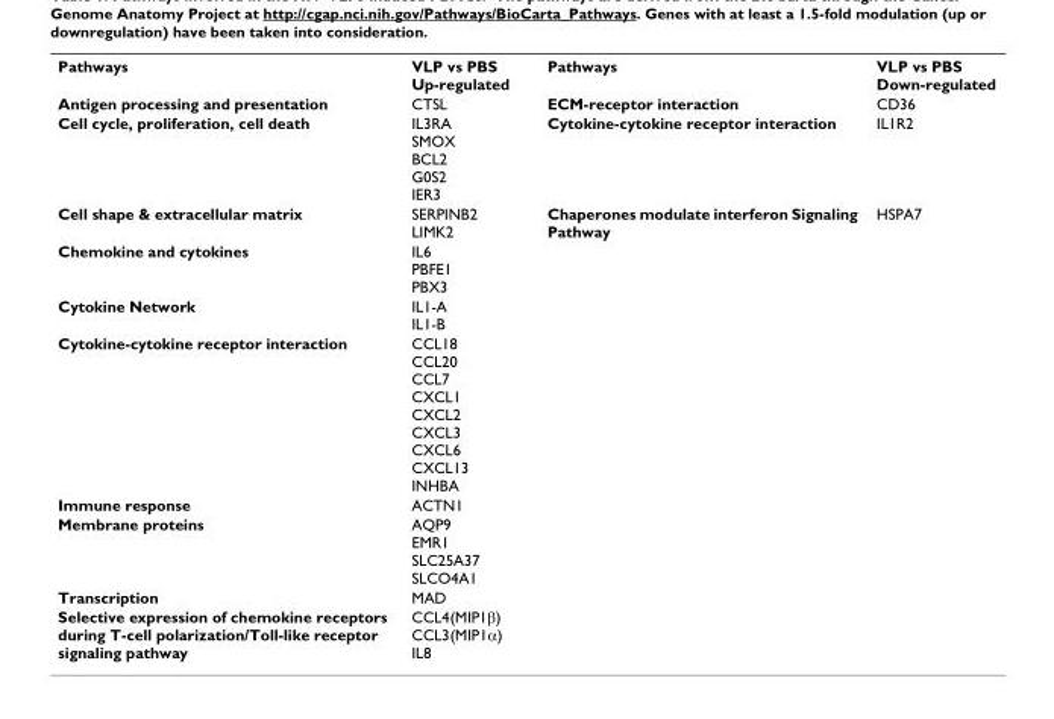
<table><tbody><tr><td>Pathways</td><td>VLP vs PBS Up-regulated</td><td>Pathways</td><td>VLP vs PBS Down-regulated</td></tr><tr><td>Antigen processing and presentation</td><td>CTSL</td><td>ECM-receptor interaction</td><td>CD36</td></tr><tr><td>Cell cycle, proliferation, cell death</td><td>IL3RA SMOX BCL2 G0S2 IER3</td><td>Cytokine-cytokine receptor interaction</td><td>IL1R2</td></tr><tr><td>Cell shape &amp; extracellular matrix</td><td>SERPINB2 LIMK2</td><td>Chaperones modulate interferon Signaling Pathway</td><td>HSPA7</td></tr><tr><td>Chemokine and cytokines</td><td>IL6 PBFE1 PBX3</td><td></td><td></td></tr><tr><td>Cytokine Network</td><td>IL1-A IL1-B</td><td></td><td></td></tr><tr><td>Cytokine-cytokine receptor interaction</td><td>CCL18 CCL20 CCL7 CXCL1 CXCL2 CXCL3 CXCL6 CXCL13 INHBA</td><td></td><td></td></tr><tr><td>Immune response</td><td>ACTN1</td><td></td><td></td></tr><tr><td>Membrane proteins</td><td>AQP9 EMR1 SLC25A37 SLCO4A1</td><td></td><td></td></tr><tr><td>Transcription</td><td>MAD</td><td></td><td></td></tr><tr><td>Selective expression of chemokine receptors during T-cell polarization/Toll-like receptor signaling pathway</td><td>CCL4 (MIP1β) CCL3 (MIP 1α) IL8</td><td></td><td></td></tr></tbody></table>